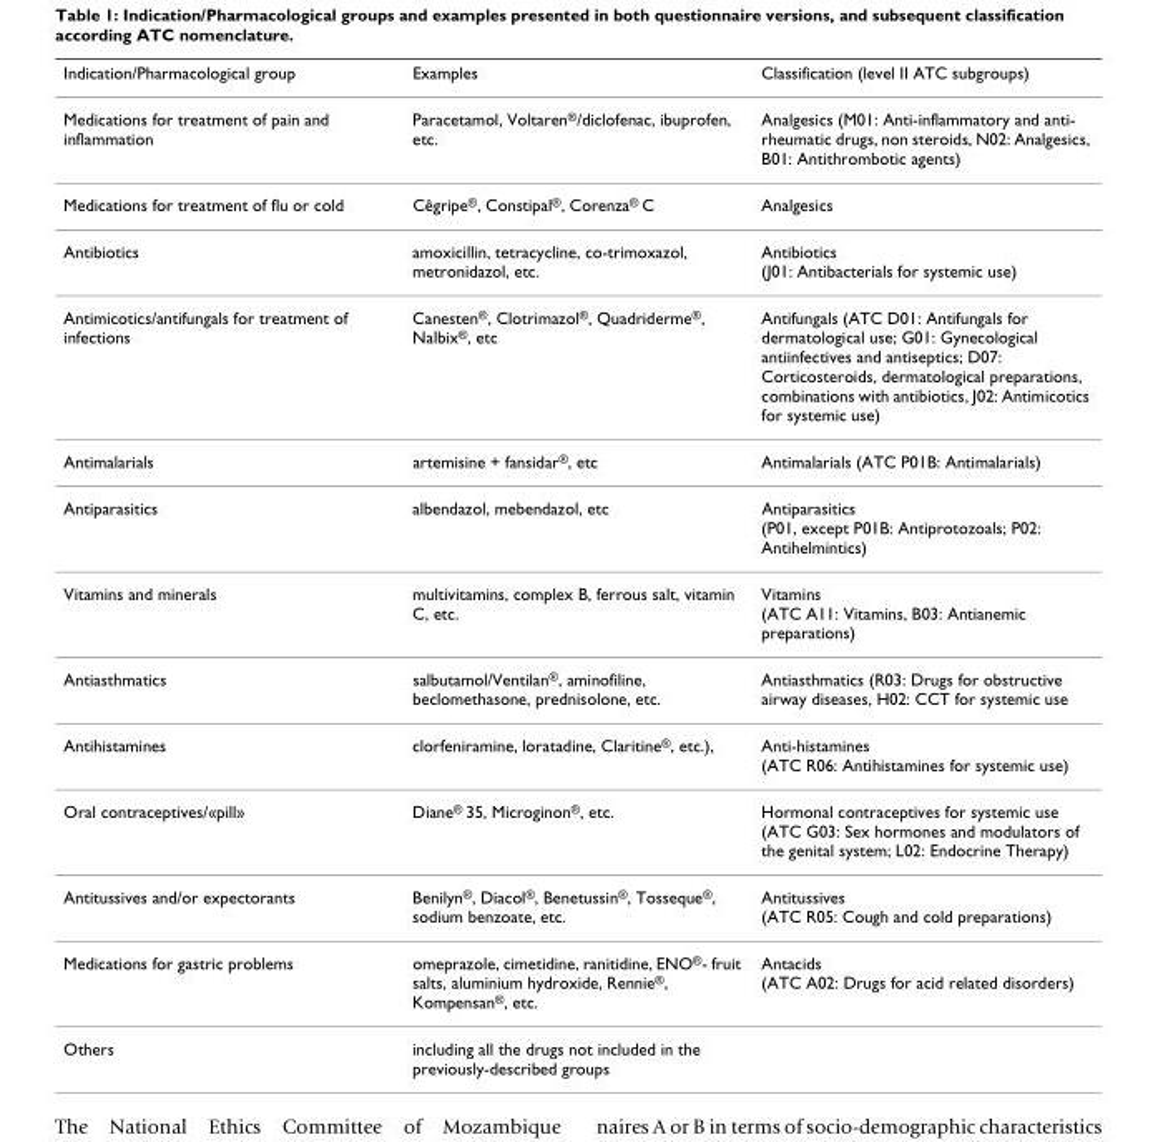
<table><thead><tr><td>Indication/Pharmacological group</td><td>Examples</td><td>Classification (level II ATC subgroups)</td></tr></thead><tbody><tr><td>Medications for treatment of pain and inflammation</td><td>Paracetamol, Voltaren<sup>®</sup>/diclofenac, ibuprofen, etc.</td><td>Analgesics (M01: Anti-inflammatory and anti- rheumatic drugs, non steroids, N02: Analgesics, B01: Antithrombotic agents)</td></tr><tr><td>Medications for treatment of flu or cold</td><td>Cêgripe<sup>®</sup>, Constipal<sup>®</sup>, Corenza<sup>®</sup> C</td><td>Analgesics</td></tr><tr><td>Antibiotics</td><td>amoxicillin, tetracycline, co-trimoxazol, metronidazol, etc.</td><td>Antibiotics (J01: Antibacterials for systemic use)</td></tr><tr><td>Antimicotics/antifungals for treatment of infections</td><td>Canesten<sup>®</sup>, Clotrimazol<sup>®</sup>, Quadriderme<sup>®</sup>, Nalbix<sup>®</sup>, etc</td><td>Antifungals (ATC D01: Antifungals for dermatological use; G01: Gynecological antiinfectives and antiseptics; D07: Corticosteroids, dermatological preparations, combinations with antibiotics, J02: Antimicotics for systemic use)</td></tr><tr><td>Antimalarials</td><td>artemisine + fansidar<sup>®</sup>, etc</td><td>Antimalarials (ATC P01B: Antimalarials)</td></tr><tr><td>Antiparasitics</td><td>albendazol, mebendazol, etc</td><td>Antiparasitics (P01, except P01B: Antiprotozoals; P02: Antihelmintics)</td></tr><tr><td>Vitamins and minerals</td><td>multivitamins, complex B, ferrous salt, vitamin C, etc.</td><td>Vitamins (ATC A11: Vitamins, B03: Antianemic preparations)</td></tr><tr><td>Antiasthmatics</td><td>salbutamol/Ventilan<sup>®</sup>, aminofiline, beclomethasone, prednisolone, etc.</td><td>Antiasthmatics (R03: Drugs for obstructive airway diseases, H02: CCT for systemic use</td></tr><tr><td>Antihistamines</td><td>clorfeniramine, loratadine, Claritine<sup>®</sup>, etc.),</td><td>Anti-histamines (ATC R06: Antihistamines for systemic use)</td></tr><tr><td>Oral contraceptives/«pill»</td><td>Diane<sup>®</sup> 35, Microginon<sup>®</sup>, etc.</td><td>Hormonal contraceptives for systemic use (ATC G03: Sex hormones and modulators of the genital system; L02: Endocrine Therapy)</td></tr><tr><td>Antitussives and/or expectorants</td><td>Benilyn<sup>®</sup>, Diacol<sup>®</sup>, Benetussin<sup>®</sup>, Tosseque<sup>®</sup>, sodium benzoate, etc.</td><td>Antitussives (ATC R05: Cough and cold preparations)</td></tr><tr><td>Medications for gastric problems</td><td>omeprazole, cimetidine, ranitidine, ENO<sup>®</sup>- fruit salts, aluminium hydroxide, Rennie<sup>®</sup>, Kompensan<sup>®</sup>, etc.</td><td>Antacids (ATC A02: Drugs for acid related disorders)</td></tr><tr><td>Others</td><td>including all the drugs not included in the previously-described groups</td><td></td></tr></tbody></table>